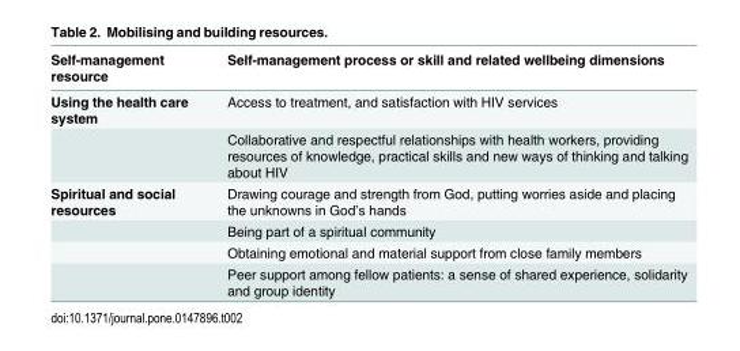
<table><thead><tr><td>Self-management resource</td><td>Self-management process or skill and related wellbeing dimensions</td></tr></thead><tbody><tr><td rowspan="2">Using the health care system</td><td>Access to treatment, and satisfaction with HIV services</td></tr><tr><td>Collaborative and respectful relationships with health workers, providing resources of knowledge, practical skills and new ways of thinking and talking about HIV</td></tr><tr><td rowspan="4">Spiritual and social resources</td><td>Drawing courage and strength from God, putting worries aside and placing the unknowns in God’s hands</td></tr><tr><td>Being part of a spiritual community</td></tr><tr><td>Obtaining emotional and material support from close family members</td></tr><tr><td>Peer support among fellow patients: a sense of shared experience, solidarity and group identity</td></tr></tbody></table>